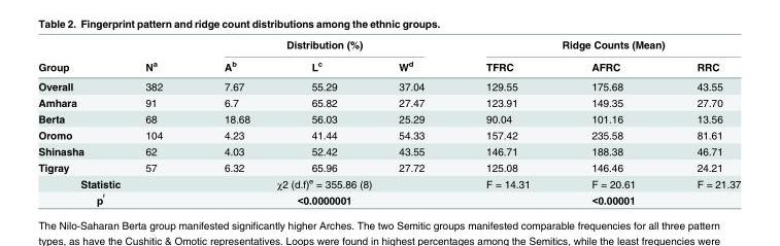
<table><thead><tr><td rowspan="2">Group</td><td rowspan="2">N<sup>a</sup></td><td colspan="3">Distribution (%)</td><td colspan="3">Ridge Counts (Mean)</td></tr><tr><td>A<sup>b</sup></td><td>L<sup>c</sup></td><td>W<sup>d</sup></td><td>TFRC</td><td>AFRC</td><td>RRC</td></tr></thead><tbody><tr><td>Overall</td><td>382</td><td>7.67</td><td>55.29</td><td>37.04</td><td>129.55</td><td>175.68</td><td>43.55</td></tr><tr><td>Amhara</td><td>91</td><td>6.7</td><td>65.82</td><td>27.47</td><td>123.91</td><td>149.35</td><td>27.70</td></tr><tr><td>Berta</td><td>68</td><td>18.68</td><td>56.03</td><td>25.29</td><td>90.04</td><td>101.16</td><td>13.56</td></tr><tr><td>Oromo</td><td>104</td><td>4.23</td><td>41.44</td><td>54.33</td><td>157.42</td><td>235.58</td><td>81.61</td></tr><tr><td>Shinasha</td><td>62</td><td>4.03</td><td>52.42</td><td>43.55</td><td>146.71</td><td>188.38</td><td>46.71</td></tr><tr><td>Tigray</td><td>57</td><td>6.32</td><td>65.96</td><td>27.72</td><td>125.08</td><td>146.46</td><td>24.21</td></tr><tr><td colspan="2">Statistic</td><td colspan="3">χ2 (d.f)<sup>e</sup> = 355.86 (8)</td><td>F = 14.31</td><td>F = 20.61</td><td>F = 21.37</td></tr><tr><td colspan="2">p f</td><td colspan="3">&lt;0.0000001</td><td colspan="3">&lt;0.00001</td></tr></tbody></table>